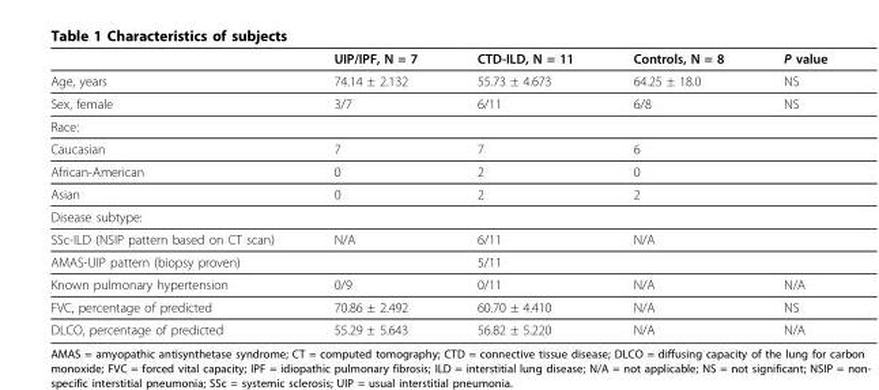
<table><thead><tr><td></td><td>UIP/IPF, N = 7</td><td>CTD-ILD, N = 11</td><td>Controls, N = 8</td><td>P value</td></tr></thead><tbody><tr><td>Age, years</td><td>74.14 ± 2.132</td><td>55.73 ± 4.673</td><td>64.25 ± 18.0</td><td>NS</td></tr><tr><td>Sex, female</td><td>3/7</td><td>6/11</td><td>6/8</td><td>NS</td></tr><tr><td colspan="5">Race:</td></tr><tr><td>Caucasian</td><td>7</td><td>7</td><td>6</td><td></td></tr><tr><td>African-American</td><td>0</td><td>2</td><td>0</td><td></td></tr><tr><td>Asian</td><td>0</td><td>2</td><td>2</td><td></td></tr><tr><td colspan="5">Disease subtype:</td></tr><tr><td>SSc-ILD (NSIP pattern based on CT scan)</td><td>N/A</td><td>6/11</td><td>N/A</td><td></td></tr><tr><td>AMAS-UIP pattern (biopsy proven)</td><td></td><td>5/11</td><td></td><td></td></tr><tr><td>Known pulmonary hypertension</td><td>0/9</td><td>0/11</td><td>N/A</td><td>N/A</td></tr><tr><td>FVC, percentage of predicted</td><td>70.86 ± 2.492</td><td>60.70 ± 4.410</td><td>N/A</td><td>NS</td></tr><tr><td>DLCO, percentage of predicted</td><td>55.29 ± 5.643</td><td>56.82 ± 5.220</td><td>N/A</td><td>N/A</td></tr></tbody></table>